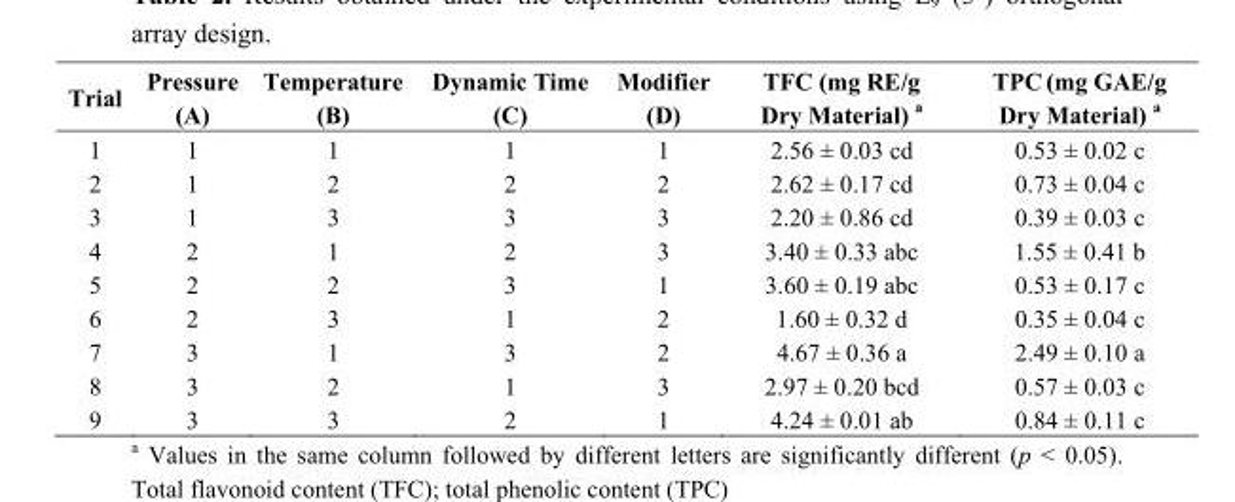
<table><thead><tr><td>Trial</td><td>Pressure (A)</td><td>Temperature (B)</td><td>Dynamic Time (C)</td><td>Modifier (D)</td><td>TFC (mg RE/g Dry Material) a</td><td>TPC (mg GAE/g Dry Material) a</td></tr></thead><tbody><tr><td>1</td><td>1</td><td>1</td><td>1</td><td>1</td><td>2.56 ± 0.03 cd</td><td>0.53 ± 0.02 c</td></tr><tr><td>2</td><td>1</td><td>2</td><td>2</td><td>2</td><td>2.62 ± 0.17 cd</td><td>0.73 ± 0.04 c</td></tr><tr><td>3</td><td>1</td><td>3</td><td>3</td><td>3</td><td>2.20 ± 0.86 cd</td><td>0.39 ± 0.03 c</td></tr><tr><td>4</td><td>2</td><td>1</td><td>2</td><td>3</td><td>3.40 ± 0.33 abc</td><td>1.55 ± 0.41 b</td></tr><tr><td>5</td><td>2</td><td>2</td><td>3</td><td>1</td><td>3.60 ± 0.19 abc</td><td>0.53 ± 0.17 c</td></tr><tr><td>6</td><td>2</td><td>3</td><td>1</td><td>2</td><td>1.60 ± 0.32 d</td><td>0.35 ± 0.04 c</td></tr><tr><td>7</td><td>3</td><td>1</td><td>3</td><td>2</td><td>4.67 ± 0.36 a</td><td>2.49 ± 0.10 a</td></tr><tr><td>8</td><td>3</td><td>2</td><td>1</td><td>3</td><td>2.97 ± 0.20 bcd</td><td>0.57 ± 0.03 c</td></tr><tr><td>9</td><td>3</td><td>3</td><td>2</td><td>1</td><td>4.24 ± 0.01 ab</td><td>0.84 ± 0.11 c</td></tr></tbody></table>